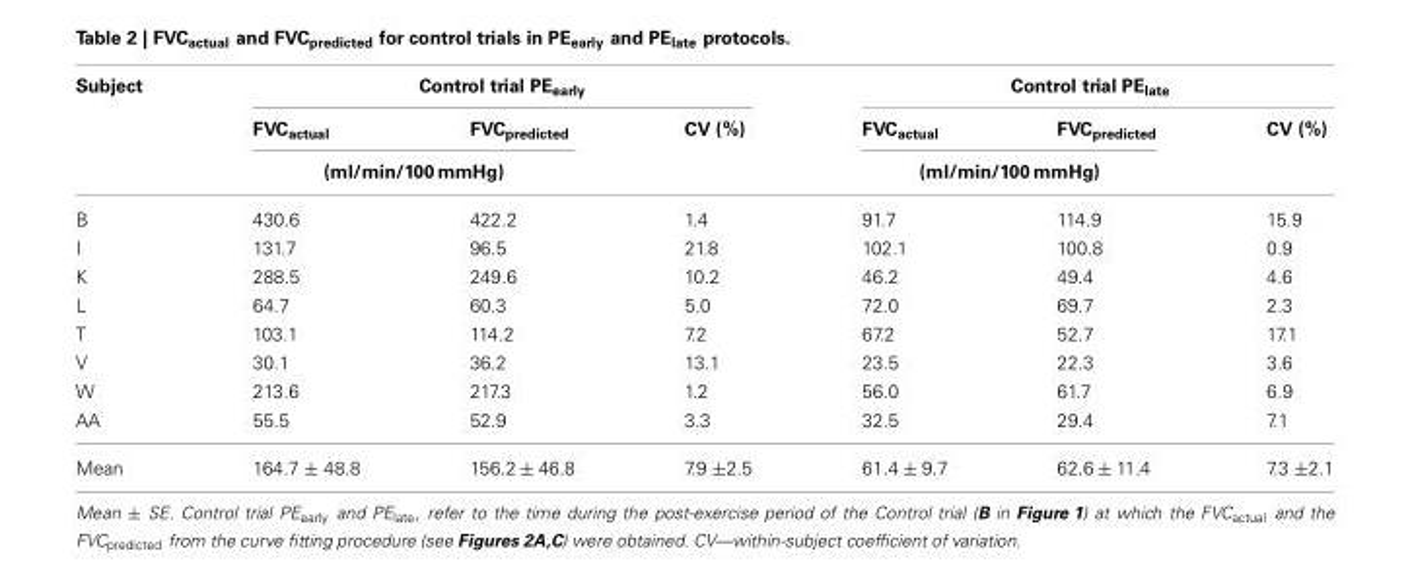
<table><thead><tr><td rowspan="3">Subject</td><td colspan="3">Control trial PE<sub>early</sub></td><td colspan="3">Control trial PE<sub>late</sub></td></tr><tr><td>FVC<sub>actual</sub></td><td>FVC<sub>predicted</sub></td><td rowspan="2">CV (%)</td><td>FVC<sub>actual</sub></td><td>FVC<sub>predicted</sub></td><td rowspan="2">CV (%)</td></tr><tr><td colspan="2">(ml/min/100 mmHg)</td><td colspan="2">(ml/min/100 mmHg)</td></tr></thead><tbody><tr><td>B</td><td>430.6</td><td>422.2</td><td>1.4</td><td>91.7</td><td>114.9</td><td>15.9</td></tr><tr><td>I</td><td>131.7</td><td>96.5</td><td>21.8</td><td>102.1</td><td>100.8</td><td>0.9</td></tr><tr><td>K</td><td>288.5</td><td>249.6</td><td>10.2</td><td>46.2</td><td>49.4</td><td>4.6</td></tr><tr><td>L</td><td>64.7</td><td>60.3</td><td>5.0</td><td>72.0</td><td>69.7</td><td>2.3</td></tr><tr><td>T</td><td>103.1</td><td>114.2</td><td>7.2</td><td>67.2</td><td>52.7</td><td>17.1</td></tr><tr><td>V</td><td>30.1</td><td>36.2</td><td>13.1</td><td>23.5</td><td>22.3</td><td>3.6</td></tr><tr><td>W</td><td>213.6</td><td>217.3</td><td>1.2</td><td>56.0</td><td>61.7</td><td>6.9</td></tr><tr><td>AA</td><td>55.5</td><td>52.9</td><td>3.3</td><td>32.5</td><td>29.4</td><td>7.1</td></tr><tr><td>Mean</td><td>164.7 ± 48.8</td><td>156.2 ± 46.8</td><td>7.9 ±2.5</td><td>61.4 ± 9.7</td><td>62.6 ± 11.4</td><td>7.3 ±2.1</td></tr></tbody></table>